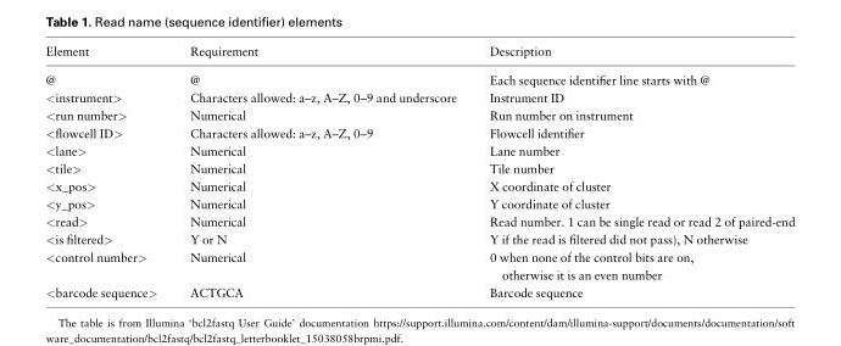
<table><thead><tr><td>Element</td><td>Requirement</td><td>Description</td></tr></thead><tbody><tr><td>@</td><td>@</td><td>Each sequence identifier line starts with @</td></tr><tr><td>&lt;instrument&gt;</td><td>Characters allowed: a–z, A–Z, 0–9 and underscore</td><td>Instrument ID</td></tr><tr><td>&lt;run number&gt;</td><td>Numerical</td><td>Run number on instrument</td></tr><tr><td>&lt;flowcell ID&gt;</td><td>Characters allowed: a–z, A–Z, 0–9</td><td>Flowcell identifier</td></tr><tr><td>&lt;lane&gt;</td><td>Numerical</td><td>Lane number</td></tr><tr><td>&lt;tile&gt;</td><td>Numerical</td><td>Tile number</td></tr><tr><td>&lt;x_pos&gt;</td><td>Numerical</td><td>X coordinate of cluster</td></tr><tr><td>&lt;y_pos&gt;</td><td>Numerical</td><td>Y coordinate of cluster</td></tr><tr><td>&lt;read&gt;</td><td>Numerical</td><td>Read number. 1 can be single read or read 2 of paired-end</td></tr><tr><td>&lt;is filtered&gt;</td><td>Y or N</td><td>Y if the read is filtered did not pass), N otherwise</td></tr><tr><td>&lt;control number&gt;</td><td>Numerical</td><td>0 when none of the control bits are on, otherwise it is an even number</td></tr><tr><td>&lt;barcode sequence&gt;</td><td>ACTGCA</td><td>Barcode sequence</td></tr></tbody></table>